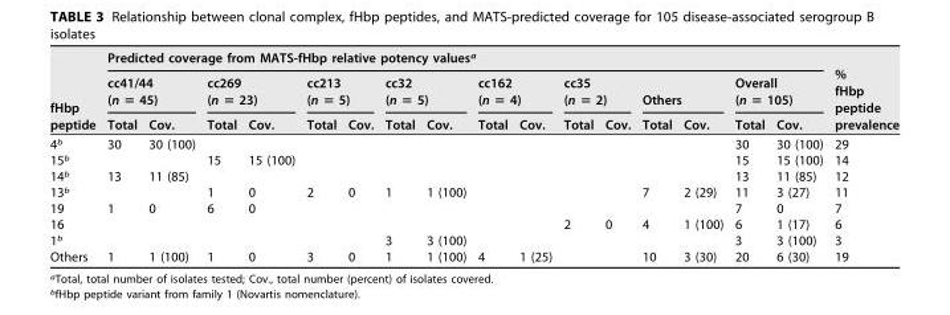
<table><thead><tr><td rowspan="3">fHbp peptide</td><td colspan="16">Predicted coverage from MATS-fHbp relative potency values<sup>a</sup></td><td rowspan="3">% fHbp peptide prevalence</td></tr><tr><td colspan="2">cc41/44 (n = 45)</td><td colspan="2">cc269 (n = 23)</td><td colspan="2">cc213 (n = 5)</td><td colspan="2">cc32 (n = 5)</td><td colspan="2">cc162 (n = 4)</td><td colspan="2">cc35 (n = 2)</td><td colspan="2">Others</td><td colspan="2">Overall (n = 105)</td></tr><tr><td>Total</td><td>Cov.</td><td>Total</td><td>Cov.</td><td>Total</td><td>Cov.</td><td>Total</td><td>Cov.</td><td>Total</td><td>Cov.</td><td>Total</td><td>Cov.</td><td>Total</td><td>Cov.</td><td>Total</td><td>Cov.</td></tr></thead><tbody><tr><td>4<sup>b</sup></td><td>30</td><td>30 (100)</td><td></td><td></td><td></td><td></td><td></td><td></td><td></td><td></td><td></td><td></td><td></td><td></td><td>30</td><td>30 (100)</td><td>29</td></tr><tr><td>15<sup>b</sup></td><td></td><td></td><td>15</td><td>15 (100)</td><td></td><td></td><td></td><td></td><td></td><td></td><td></td><td></td><td></td><td></td><td>15</td><td>15 (100)</td><td>14</td></tr><tr><td>14<sup>b</sup></td><td>13</td><td>11 (85)</td><td></td><td></td><td></td><td></td><td></td><td></td><td></td><td></td><td></td><td></td><td></td><td></td><td>13</td><td>11 (85)</td><td>12</td></tr><tr><td>13<sup>b</sup></td><td></td><td></td><td>1</td><td>0</td><td>2</td><td>0</td><td>1</td><td>1 (100)</td><td></td><td></td><td></td><td></td><td>7</td><td>2 (29)</td><td>11</td><td>3 (27)</td><td>11</td></tr><tr><td>19</td><td>1</td><td>0</td><td>6</td><td>0</td><td></td><td></td><td></td><td></td><td></td><td></td><td></td><td></td><td></td><td></td><td>7</td><td>0</td><td>7</td></tr><tr><td>16</td><td></td><td></td><td></td><td></td><td></td><td></td><td></td><td></td><td></td><td></td><td>2</td><td>0</td><td>4</td><td>1 (100)</td><td>6</td><td>1 (17)</td><td>6</td></tr><tr><td>1<sup>b</sup></td><td></td><td></td><td></td><td></td><td></td><td></td><td>3</td><td>3 (100)</td><td></td><td></td><td></td><td></td><td></td><td></td><td>3</td><td>3 (100)</td><td>3</td></tr><tr><td>Others</td><td>1</td><td>1 (100)</td><td>1</td><td>0</td><td>3</td><td>0</td><td>1</td><td>1 (100)</td><td>4</td><td>1 (25)</td><td></td><td></td><td>10</td><td>3 (30)</td><td>20</td><td>6 (30)</td><td>19</td></tr></tbody></table>